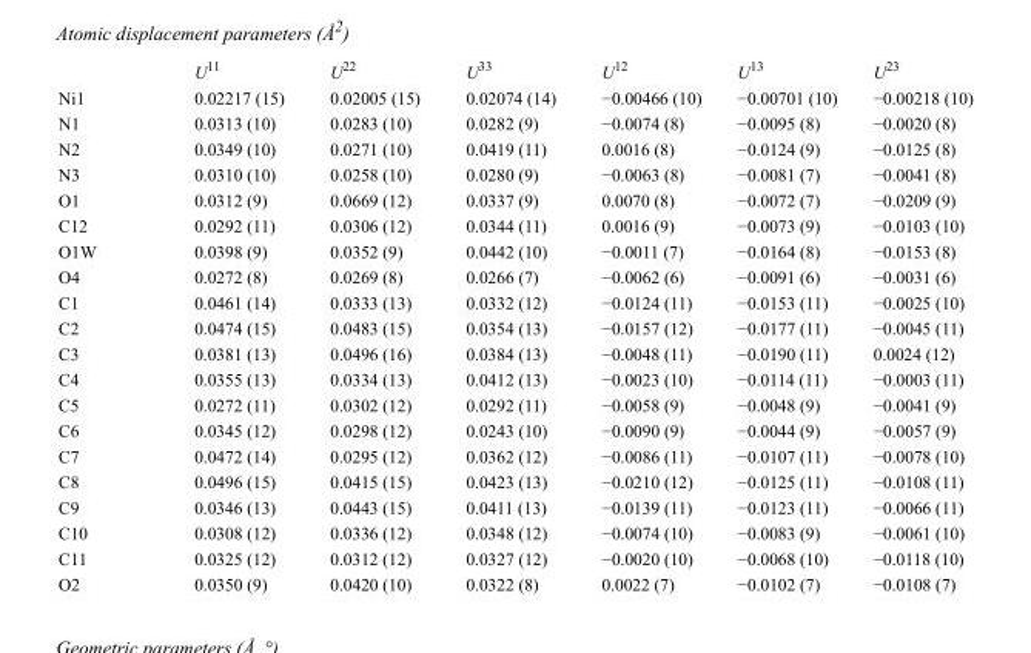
<table><thead><tr><td></td><td>U<sup>11</sup></td><td>U<sup>22</sup></td><td>U<sup>33</sup></td><td>U<sup>12</sup></td><td>U<sup>13</sup></td><td>U<sup>23</sup></td></tr></thead><tbody><tr><td>Ni1</td><td>0.02217 (15)</td><td>0.02005 (15)</td><td>0.02074 (14)</td><td>−0.00466 (10)</td><td>−0.00701 (10)</td><td>−0.00218 (10)</td></tr><tr><td>N1</td><td>0.0313 (10)</td><td>0.0283 (10)</td><td>0.0282 (9)</td><td>−0.0074 (8)</td><td>−0.0095 (8)</td><td>−0.0020 (8)</td></tr><tr><td>N2</td><td>0.0349 (10)</td><td>0.0271 (10)</td><td>0.0419 (11)</td><td>0.0016 (8)</td><td>−0.0124 (9)</td><td>−0.0125 (8)</td></tr><tr><td>N3</td><td>0.0310 (10)</td><td>0.0258 (10)</td><td>0.0280 (9)</td><td>−0.0063 (8)</td><td>−0.0081 (7)</td><td>−0.0041 (8)</td></tr><tr><td>O1</td><td>0.0312 (9)</td><td>0.0669 (12)</td><td>0.0337 (9)</td><td>0.0070 (8)</td><td>−0.0072 (7)</td><td>−0.0209 (9)</td></tr><tr><td>C12</td><td>0.0292 (11)</td><td>0.0306 (12)</td><td>0.0344 (11)</td><td>0.0016 (9)</td><td>−0.0073 (9)</td><td>−0.0103 (10)</td></tr><tr><td>O1W</td><td>0.0398 (9)</td><td>0.0352 (9)</td><td>0.0442 (10)</td><td>−0.0011 (7)</td><td>−0.0164 (8)</td><td>−0.0153 (8)</td></tr><tr><td>O4</td><td>0.0272 (8)</td><td>0.0269 (8)</td><td>0.0266 (7)</td><td>−0.0062 (6)</td><td>−0.0091 (6)</td><td>−0.0031 (6)</td></tr><tr><td>C1</td><td>0.0461 (14)</td><td>0.0333 (13)</td><td>0.0332 (12)</td><td>−0.0124 (11)</td><td>−0.0153 (11)</td><td>−0.0025 (10)</td></tr><tr><td>C2</td><td>0.0474 (15)</td><td>0.0483 (15)</td><td>0.0354 (13)</td><td>−0.0157 (12)</td><td>−0.0177 (11)</td><td>−0.0045 (11)</td></tr><tr><td>C3</td><td>0.0381 (13)</td><td>0.0496 (16)</td><td>0.0384 (13)</td><td>−0.0048 (11)</td><td>−0.0190 (11)</td><td>0.0024 (12)</td></tr><tr><td>C4</td><td>0.0355 (13)</td><td>0.0334 (13)</td><td>0.0412 (13)</td><td>−0.0023 (10)</td><td>−0.0114 (11)</td><td>−0.0003 (11)</td></tr><tr><td>C5</td><td>0.0272 (11)</td><td>0.0302 (12)</td><td>0.0292 (11)</td><td>−0.0058 (9)</td><td>−0.0048 (9)</td><td>−0.0041 (9)</td></tr><tr><td>C6</td><td>0.0345 (12)</td><td>0.0298 (12)</td><td>0.0243 (10)</td><td>−0.0090 (9)</td><td>−0.0044 (9)</td><td>−0.0057 (9)</td></tr><tr><td>C7</td><td>0.0472 (14)</td><td>0.0295 (12)</td><td>0.0362 (12)</td><td>−0.0086 (11)</td><td>−0.0107 (11)</td><td>−0.0078 (10)</td></tr><tr><td>C8</td><td>0.0496 (15)</td><td>0.0415 (15)</td><td>0.0423 (13)</td><td>−0.0210 (12)</td><td>−0.0125 (11)</td><td>−0.0108 (11)</td></tr><tr><td>C9</td><td>0.0346 (13)</td><td>0.0443 (15)</td><td>0.0411 (13)</td><td>−0.0139 (11)</td><td>−0.0123 (11)</td><td>−0.0066 (11)</td></tr><tr><td>C10</td><td>0.0308 (12)</td><td>0.0336 (12)</td><td>0.0348 (12)</td><td>−0.0074 (10)</td><td>−0.0083 (9)</td><td>−0.0061 (10)</td></tr><tr><td>C11</td><td>0.0325 (12)</td><td>0.0312 (12)</td><td>0.0327 (12)</td><td>−0.0020 (10)</td><td>−0.0068 (10)</td><td>−0.0118 (10)</td></tr><tr><td>O2</td><td>0.0350 (9)</td><td>0.0420 (10)</td><td>0.0322 (8)</td><td>0.0022 (7)</td><td>−0.0102 (7)</td><td>−0.0108 (7)</td></tr></tbody></table>